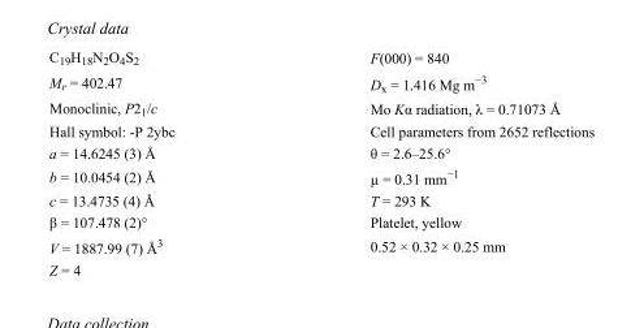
<table><tbody><tr><td>C<sub>19</sub>H<sub>18</sub>N<sub>2</sub>O<sub>4</sub>S<sub>2</sub></td><td>F(000) = 840</td></tr><tr><td>M<sub>r</sub> = 402.47</td><td>D<sub>x</sub> = 1.416 Mg m<sup>−3</sup></td></tr><tr><td>Monoclinic, P2<sub>1</sub>/c</td><td>Mo Kα radiation, λ = 0.71073 Å</td></tr><tr><td>Hall symbol: -P 2ybc</td><td>Cell parameters from 2652 reflections</td></tr><tr><td>a = 14.6245 (3) Å</td><td>θ = 2.6–25.6°</td></tr><tr><td>b = 10.0454 (2) Å</td><td>µ = 0.31 mm<sup>−1</sup></td></tr><tr><td>c = 13.4735 (4) Å</td><td>T = 293 K</td></tr><tr><td>β = 107.478 (2)°</td><td>Platelet, yellow</td></tr><tr><td>V = 1887.99 (7) Å<sup>3</sup></td><td>0.52 × 0.32 × 0.25 mm</td></tr><tr><td>Z = 4</td><td></td></tr></tbody></table>